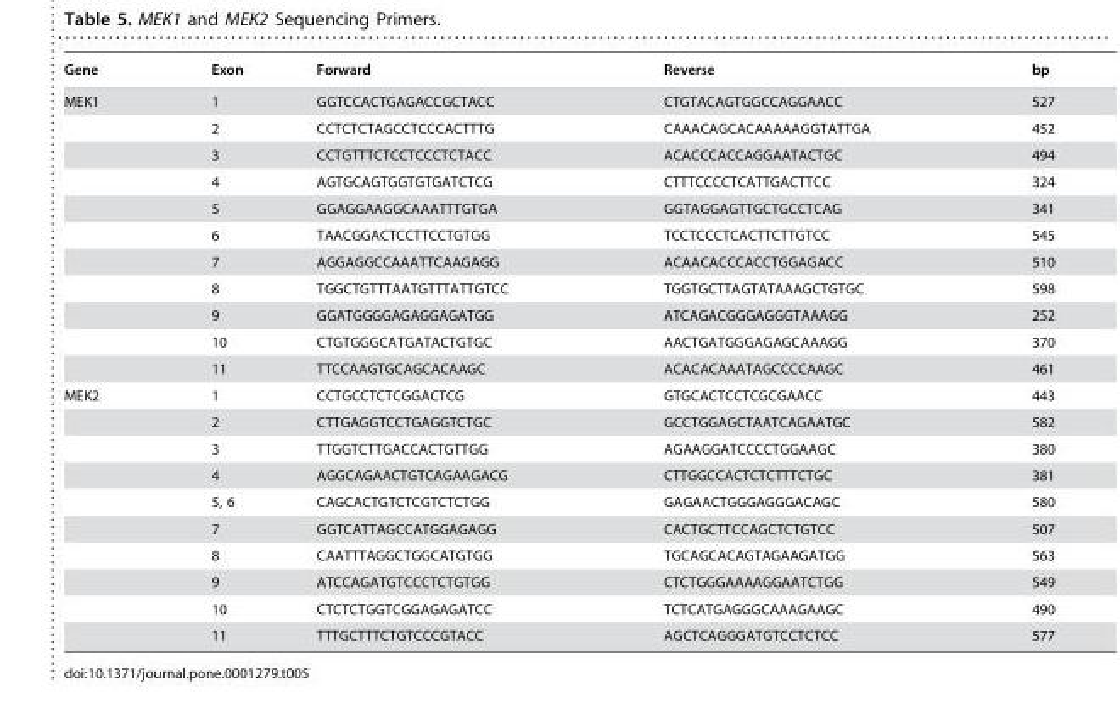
<table><thead><tr><td>Gene</td><td>Exon</td><td>Forward</td><td>Reverse</td><td>bp</td></tr></thead><tbody><tr><td rowspan="11">MEK1</td><td>1</td><td>GGTCCACTGAGACCGCTACC</td><td>CTGTACAGTGGCCAGGAACC</td><td>527</td></tr><tr><td>2</td><td>CCTCTCTAGCCTCCCACTTTG</td><td>CAAACAGCACAAAAAGGTATTGA</td><td>452</td></tr><tr><td>3</td><td>CCTGTTTCTCCTCCCTCTACC</td><td>ACACCCACCAGGAATACTGC</td><td>494</td></tr><tr><td>4</td><td>AGTGCAGTGGTGTGATCTCG</td><td>CTTTCCCCTCATTGACTTCC</td><td>324</td></tr><tr><td>5</td><td>GGAGGAAGGCAAATTTGTGA</td><td>GGTAGGAGTTGCTGCCTCAG</td><td>341</td></tr><tr><td>6</td><td>TAACGGACTCCTTCCTGTGG</td><td>TCCTCCCTCACTTCTTGTCC</td><td>545</td></tr><tr><td>7</td><td>AGGAGGCCAAATTCAAGAGG</td><td>ACAACACCCACCTGGAGACC</td><td>510</td></tr><tr><td>8</td><td>TGGCTGTTTAATGTTTATTGTCC</td><td>TGGTGCTTAGTATAAAGCTGTGC</td><td>598</td></tr><tr><td>9</td><td>GGATGGGGAGAGGAGATGG</td><td>ATCAGACGGGAGGGTAAAGG</td><td>252</td></tr><tr><td>10</td><td>CTGTGGGCATGATACTGTGC</td><td>AACTGATGGGAGAGCAAAGG</td><td>370</td></tr><tr><td>11</td><td>TTCCAAGTGCAGCACAAGC</td><td>ACACACAAATAGCCCCAAGC</td><td>461</td></tr><tr><td rowspan="10">MEK2</td><td>1</td><td>CCTGCCTCTCGGACTCG</td><td>GTGCACTCCTCGCGAACC</td><td>443</td></tr><tr><td>2</td><td>CTTGAGGTCCTGAGGTCTGC</td><td>GCCTGGAGCTAATCAGAATGC</td><td>582</td></tr><tr><td>3</td><td>TTGGTCTTGACCACTGTTGG</td><td>AGAAGGATCCCCTGGAAGC</td><td>380</td></tr><tr><td>4</td><td>AGGCAGAACTGTCAGAAGACG</td><td>CTTGGCCACTCTCTTTCTGC</td><td>381</td></tr><tr><td>5, 6</td><td>CAGCACTGTCTCGTCTCTGG</td><td>GAGAACTGGGAGGGACAGC</td><td>580</td></tr><tr><td>7</td><td>GGTCATTAGCCATGGAGAGG</td><td>CACTGCTTCCAGCTCTGTCC</td><td>507</td></tr><tr><td>8</td><td>CAATTTAGGCTGGCATGTGG</td><td>TGCAGCACAGTAGAAGATGG</td><td>563</td></tr><tr><td>9</td><td>ATCCAGATGTCCCTCTGTGG</td><td>CTCTGGGAAAAGGAATCTGG</td><td>549</td></tr><tr><td>10</td><td>CTCTCTGGTCGGAGAGATCC</td><td>TCTCATGAGGGCAAAGAAGC</td><td>490</td></tr><tr><td>11</td><td>TTTGCTTTCTGTCCCGTACC</td><td>AGCTCAGGGATGTCCTCTCC</td><td>577</td></tr></tbody></table>